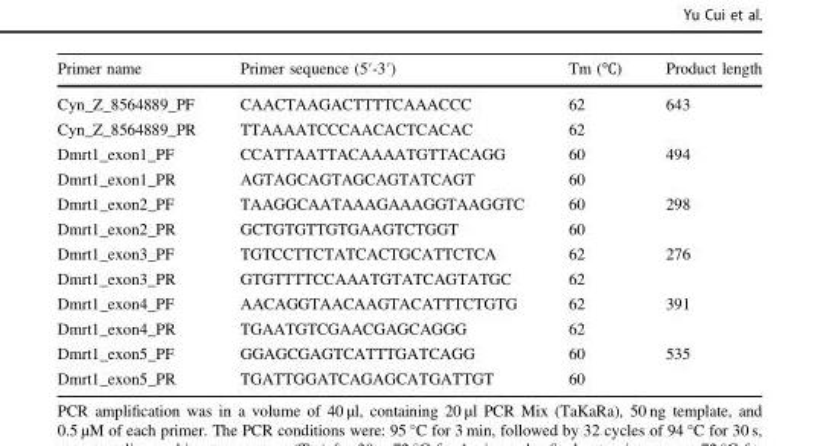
<table><thead><tr><td>Primer name</td><td>Primer sequence (5′-3′)</td><td>Tm (℃)</td><td>Product length</td></tr></thead><tbody><tr><td>Cyn_Z_8564889_PF</td><td>CAACTAAGACTTTTCAAACCC</td><td>62</td><td>643</td></tr><tr><td>Cyn_Z_8564889_PR</td><td>TTAAAATCCCAACACTCACAC</td><td>62</td><td></td></tr><tr><td>Dmrt1_exon1_PF</td><td>CCATTAATTACAAAATGTTACAGG</td><td>60</td><td>494</td></tr><tr><td>Dmrt1_exon1_PR</td><td>AGTAGCAGTAGCAGTATCAGT</td><td>60</td><td></td></tr><tr><td>Dmrt1_exon2_PF</td><td>TAAGGCAATAAAGAAAGGTAAGGTC</td><td>60</td><td>298</td></tr><tr><td>Dmrt1_exon2_PR</td><td>GCTGTGTTGTGAAGTCTGGT</td><td>60</td><td></td></tr><tr><td>Dmrt1_exon3_PF</td><td>TGTCCTTCTATCACTGCATTCTCA</td><td>62</td><td>276</td></tr><tr><td>Dmrt1_exon3_PR</td><td>GTGTTTTCCAAATGTATCAGTATGC</td><td>62</td><td></td></tr><tr><td>Dmrt1_exon4_PF</td><td>AACAGGTAACAAGTACATTTCTGTG</td><td>62</td><td>391</td></tr><tr><td>Dmrt1_exon4_PR</td><td>TGAATGTCGAACGAGCAGGG</td><td>62</td><td></td></tr><tr><td>Dmrt1_exon5_PF</td><td>GGAGCGAGTCATTTGATCAGG</td><td>60</td><td>535</td></tr><tr><td>Dmrt1_exon5_PR</td><td>TGATTGGATCAGAGCATGATTGT</td><td>60</td><td></td></tr></tbody></table>